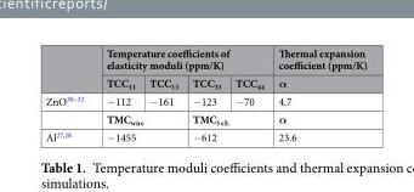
<table><thead><tr><td rowspan="2"></td><td colspan="4">Temperature coefficients of elasticity moduli (ppm/K)</td><td rowspan="2">Thermal expansion coefficient (ppm/K) α</td></tr><tr><td>TCC<sub>11</sub></td><td>TCC<sub>13</sub></td><td>TCC<sub>33</sub></td><td>TCC<sub>44</sub></td></tr></thead><tbody><tr><td rowspan="2">ZnO<sup>30–32</sup></td><td>−112</td><td>−161</td><td>−123</td><td>−70</td><td>4.7</td></tr><tr><td colspan="2">TMC<sub>wire</sub></td><td colspan="2">TMC<sub>bulk</sub></td><td>α</td></tr><tr><td>Al<sup>27,28</sup></td><td colspan="2">−1455</td><td colspan="2">−612</td><td>23.6</td></tr></tbody></table>